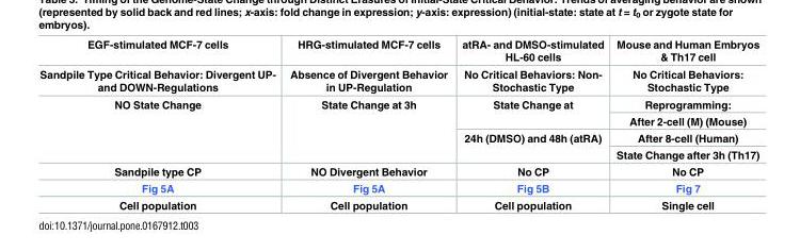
<table><thead><tr><td rowspan="2">EGF-stimulated MCF-7 cells Sandpile Type Critical Behavior: Divergent UP- and DOWN-Regulations</td><td rowspan="2">HRG-stimulated MCF-7 cells Absence of Divergent Behavior in UP-Regulation</td><td rowspan="2">atRA- and DMSO-stimulated HL-60 cells No Critical Behaviors: Non- Stochastic Type</td><td rowspan="2">Mouse and Human Embryos &amp; Th17 cell No Critical Behaviors: Stochastic Type</td></tr><tr></tr></thead><tbody><tr><td rowspan="4">NO State Change</td><td rowspan="4">State Change at 3h</td><td rowspan="2">State Change at</td><td>Reprogramming:</td></tr><tr><td>After 2-cell (M) (Mouse)</td></tr><tr><td rowspan="2">24h (DMSO) and 48h (atRA)</td><td>After 8-cell (Human)</td></tr><tr><td>State Change after 3h (Th17)</td></tr><tr><td>Sandpile type CP</td><td>NO Divergent Behavior</td><td>No CP</td><td>No CP</td></tr><tr><td>Fig 5A</td><td>Fig 5A</td><td>Fig 5B</td><td>Fig 7</td></tr><tr><td>Cell population</td><td>Cell population</td><td>Cell population</td><td>Single cell</td></tr></tbody></table>